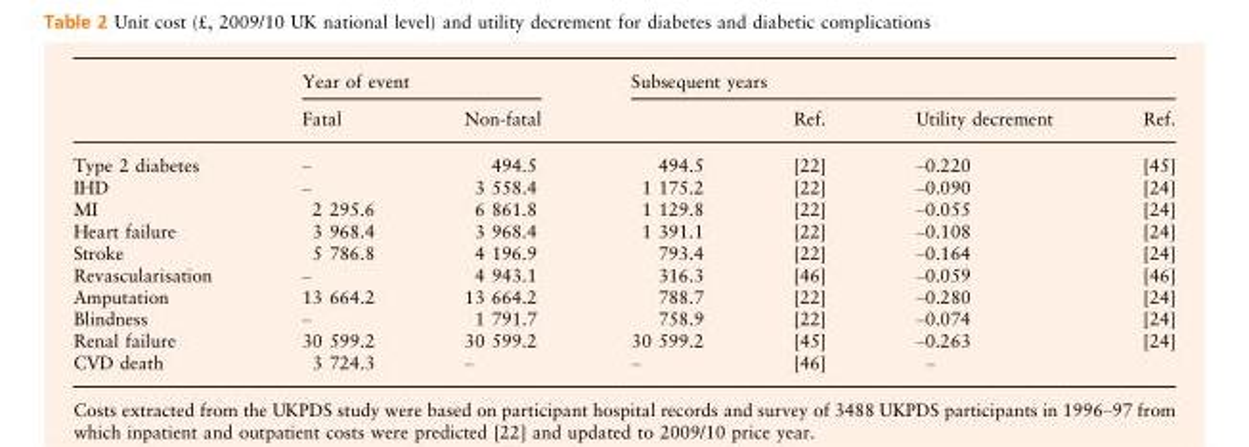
<table><thead><tr><td rowspan="2"></td><td colspan="2">Year of event</td><td colspan="4">Subsequent years</td></tr><tr><td>Fatal</td><td>Non-fatal</td><td></td><td>Ref.</td><td>Utility decrement</td><td>Ref.</td></tr></thead><tbody><tr><td>Type 2 diabetes</td><td>–</td><td>494.5</td><td>494.5</td><td>[22]</td><td>–0.220</td><td>[45]</td></tr><tr><td>IHD</td><td>–</td><td>3 558.4</td><td>1 175.2</td><td>[22]</td><td>–0.090</td><td>[24]</td></tr><tr><td>MI</td><td>2 295.6</td><td>6 861.8</td><td>1 129.8</td><td>[22]</td><td>–0.055</td><td>[24]</td></tr><tr><td>Heart failure</td><td>3 968.4</td><td>3 968.4</td><td>1 391.1</td><td>[22]</td><td>–0.108</td><td>[24]</td></tr><tr><td>Stroke</td><td>5 786.8</td><td>4 196.9</td><td>793.4</td><td>[22]</td><td>–0.164</td><td>[24]</td></tr><tr><td>Revascularisation</td><td>–</td><td>4 943.1</td><td>316.3</td><td>[46]</td><td>–0.059</td><td>[46]</td></tr><tr><td>Amputation</td><td>13 664.2</td><td>13 664.2</td><td>788.7</td><td>[22]</td><td>–0.280</td><td>[24]</td></tr><tr><td>Blindness</td><td>–</td><td>1 791.7</td><td>758.9</td><td>[22]</td><td>–0.074</td><td>[24]</td></tr><tr><td>Renal failure</td><td>30 599.2</td><td>30 599.2</td><td>30 599.2</td><td>[45]</td><td>–0.263</td><td>[24]</td></tr><tr><td>CVD death</td><td>3 724.3</td><td>–</td><td>–</td><td>[46]</td><td>–</td><td></td></tr></tbody></table>